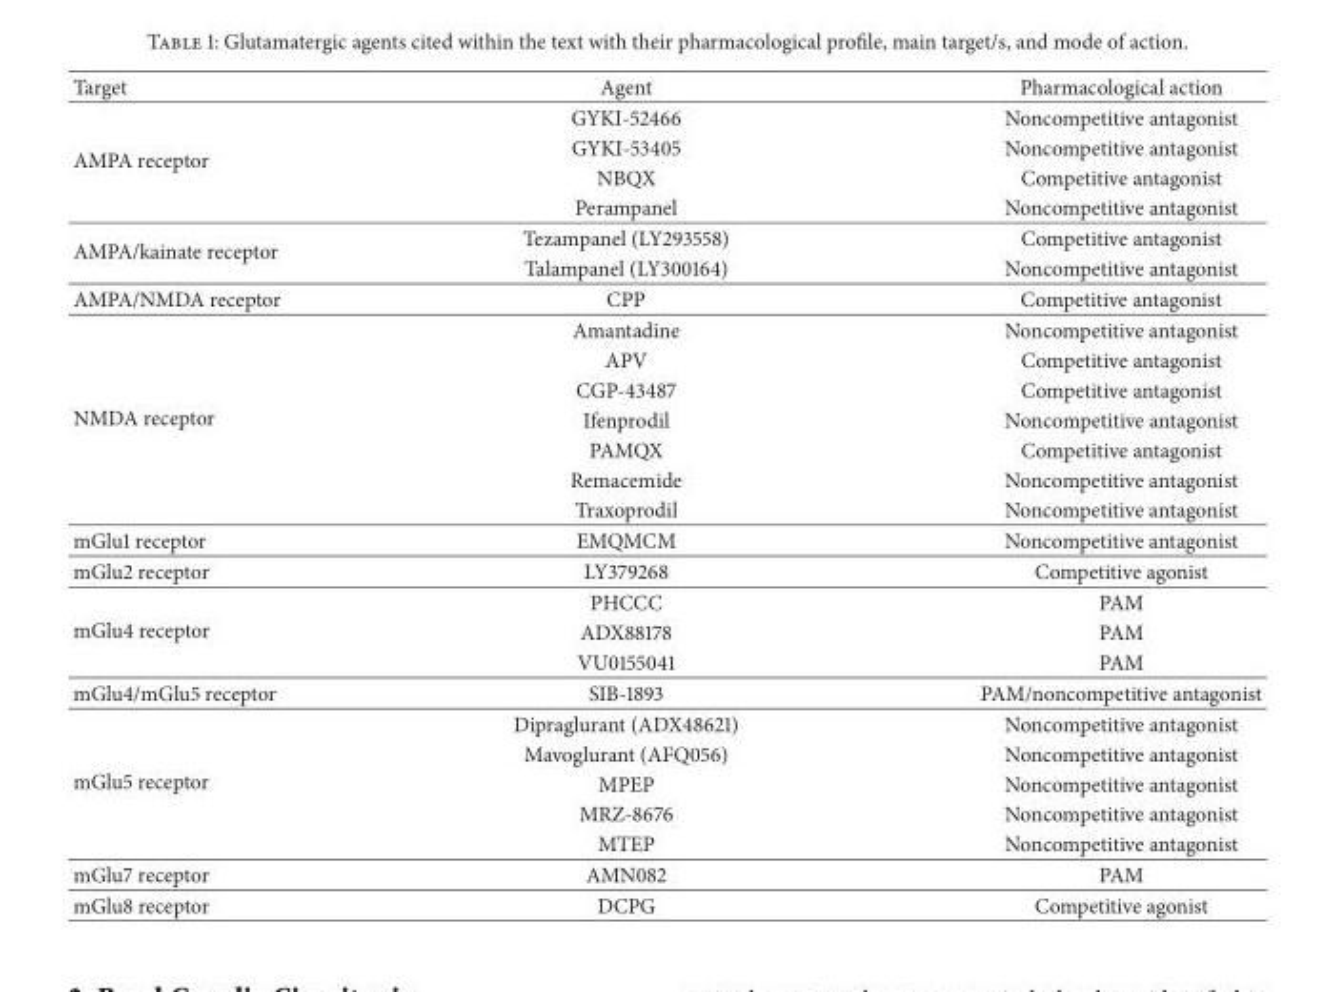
<table><thead><tr><td>Target</td><td>Agent</td><td>Pharmacological action</td></tr></thead><tbody><tr><td rowspan="4">AMPA receptor</td><td>GYKI-52466</td><td>Noncompetitive antagonist</td></tr><tr><td>GYKI-53405</td><td>Noncompetitive antagonist</td></tr><tr><td>NBQX</td><td>Competitive antagonist</td></tr><tr><td>Perampanel</td><td>Noncompetitive antagonist</td></tr><tr><td rowspan="2">AMPA/kainate receptor</td><td>Tezampanel (LY293558)</td><td>Competitive antagonist</td></tr><tr><td>Talampanel (LY300164)</td><td>Noncompetitive antagonist</td></tr><tr><td>AMPA/NMDA receptor</td><td>CPP</td><td>Competitive antagonist</td></tr><tr><td rowspan="7">NMDA receptor</td><td>Amantadine</td><td>Noncompetitive antagonist</td></tr><tr><td>APV</td><td>Competitive antagonist</td></tr><tr><td>CGP-43487</td><td>Competitive antagonist</td></tr><tr><td>Ifenprodil</td><td>Noncompetitive antagonist</td></tr><tr><td>PAMQX</td><td>Competitive antagonist</td></tr><tr><td>Remacemide</td><td>Noncompetitive antagonist</td></tr><tr><td>Traxoprodil</td><td>Noncompetitive antagonist</td></tr><tr><td>mGlu1 receptor</td><td>EMQMCM</td><td>Noncompetitive antagonist</td></tr><tr><td>mGlu2 receptor</td><td>LY379268</td><td>Competitive agonist</td></tr><tr><td rowspan="3">mGlu4 receptor</td><td>PHCCC</td><td>PAM</td></tr><tr><td>ADX88178</td><td>PAM</td></tr><tr><td>VU0155041</td><td>PAM</td></tr><tr><td>mGlu4/mGlu5 receptor</td><td>SIB-1893</td><td>PAM/noncompetitive antagonist</td></tr><tr><td rowspan="5">mGlu5 receptor</td><td>Dipraglurant (ADX48621)</td><td>Noncompetitive antagonist</td></tr><tr><td>Mavoglurant (AFQ056)</td><td>Noncompetitive antagonist</td></tr><tr><td>MPEP</td><td>Noncompetitive antagonist</td></tr><tr><td>MRZ-8676</td><td>Noncompetitive antagonist</td></tr><tr><td>MTEP</td><td>Noncompetitive antagonist</td></tr><tr><td>mGlu7 receptor</td><td>AMN082</td><td>PAM</td></tr><tr><td>mGlu8 receptor</td><td>DCPG</td><td>Competitive agonist</td></tr></tbody></table>